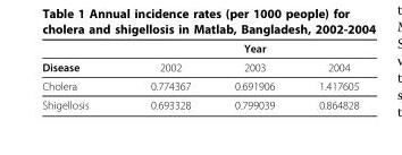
<table><thead><tr><td></td><td></td><td>Year</td><td></td></tr></thead><tbody><tr><td>Disease</td><td>2002</td><td>2003</td><td>2004</td></tr><tr><td>Cholera</td><td>0.774367</td><td>0.691906</td><td>1.417605</td></tr><tr><td>Shigellosis</td><td>0.693328</td><td>0.799039</td><td>0.864828</td></tr></tbody></table>